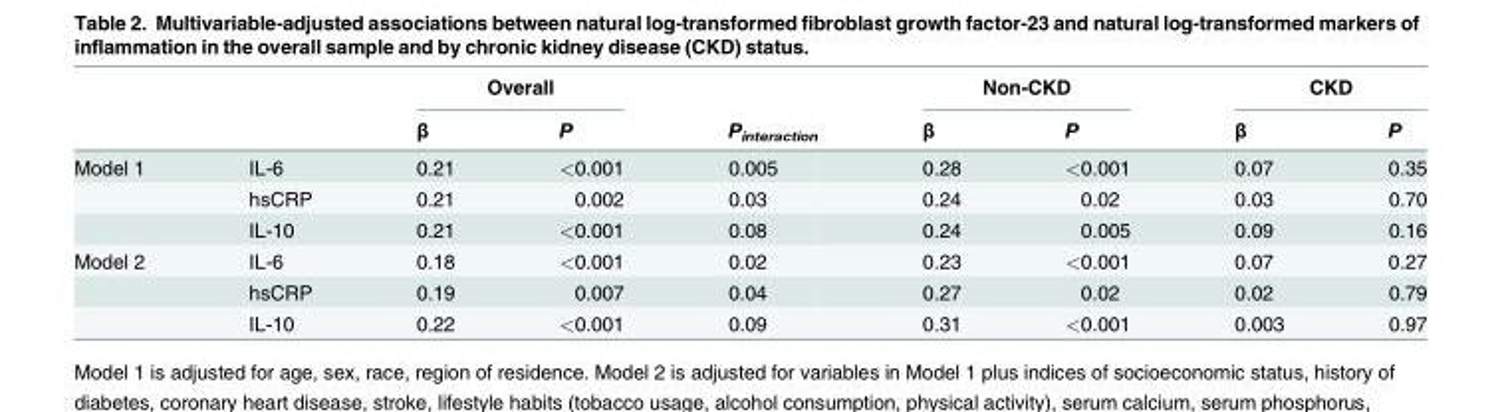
<table><thead><tr><td rowspan="2"></td><td rowspan="2"></td><td colspan="2">Overall</td><td rowspan="2">P<sub>interaction</sub></td><td colspan="2">Non-CKD</td><td colspan="2">CKD</td></tr><tr><td>β</td><td>P</td><td>β</td><td>P</td><td>β</td><td>P</td></tr></thead><tbody><tr><td rowspan="3">Model 1</td><td>IL-6</td><td>0.21</td><td>&lt;0.001</td><td>0.005</td><td>0.28</td><td>&lt;0.001</td><td>0.07</td><td>0.35</td></tr><tr><td>hsCRP</td><td>0.21</td><td>0.002</td><td>0.03</td><td>0.24</td><td>0.02</td><td>0.03</td><td>0.70</td></tr><tr><td>IL-10</td><td>0.21</td><td>&lt;0.001</td><td>0.08</td><td>0.24</td><td>0.005</td><td>0.09</td><td>0.16</td></tr><tr><td rowspan="3">Model 2</td><td>IL-6</td><td>0.18</td><td>&lt;0.001</td><td>0.02</td><td>0.23</td><td>&lt;0.001</td><td>0.07</td><td>0.27</td></tr><tr><td>hsCRP</td><td>0.19</td><td>0.007</td><td>0.04</td><td>0.27</td><td>0.02</td><td>0.02</td><td>0.79</td></tr><tr><td>IL-10</td><td>0.22</td><td>&lt;0.001</td><td>0.09</td><td>0.31</td><td>&lt;0.001</td><td>0.003</td><td>0.97</td></tr></tbody></table>